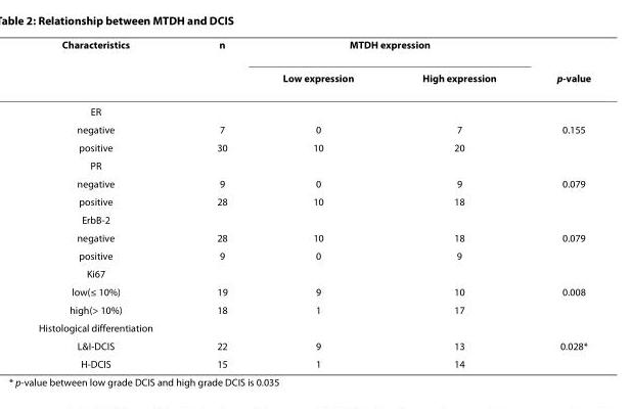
<table><thead><tr><td rowspan="2">Characteristics</td><td rowspan="2">n</td><td colspan="2">MTDH expression</td><td rowspan="2">p-value</td></tr><tr><td>Low expression</td><td>High expression</td></tr></thead><tbody><tr><td colspan="5">ER</td></tr><tr><td>negative</td><td>7</td><td>0</td><td>7</td><td>0.155</td></tr><tr><td>positive</td><td>30</td><td>10</td><td>20</td><td></td></tr><tr><td colspan="5">PR</td></tr><tr><td>negative</td><td>9</td><td>0</td><td>9</td><td>0.079</td></tr><tr><td>positive</td><td>28</td><td>10</td><td>18</td><td></td></tr><tr><td colspan="5">ErbB-2</td></tr><tr><td>negative</td><td>28</td><td>10</td><td>18</td><td>0.079</td></tr><tr><td>positive</td><td>9</td><td>0</td><td>9</td><td></td></tr><tr><td colspan="5">Ki67</td></tr><tr><td>low(≤ 10%)</td><td>19</td><td>9</td><td>10</td><td>0.008</td></tr><tr><td>high(&gt; 10%)</td><td>18</td><td>1</td><td>17</td><td></td></tr><tr><td colspan="5">Histological differentiation</td></tr><tr><td>L&amp;I-DCIS</td><td>22</td><td>9</td><td>13</td><td>0.028*</td></tr><tr><td>H-DCIS</td><td>15</td><td>1</td><td>14</td><td></td></tr></tbody></table>